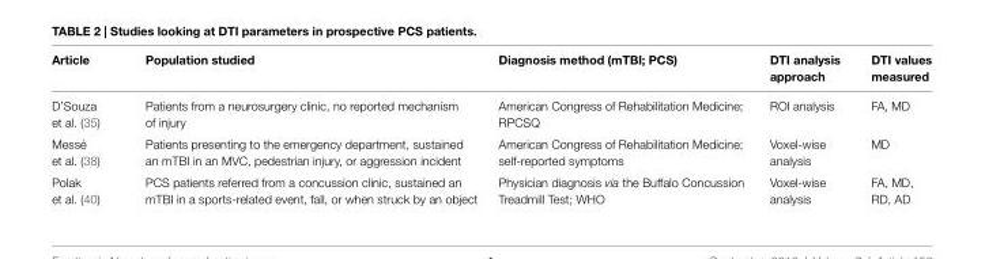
<table><thead><tr><td>Article</td><td>Population studied</td><td>Diagnosis method (mTBi; PCS)</td><td>DTi analysis approach</td><td>DTi values measured</td></tr></thead><tbody><tr><td>D’Souza et al. (35)</td><td>Patients from a neurosurgery clinic, no reported mechanism of injury</td><td>American Congress of Rehabilitation Medicine; RPCSQ</td><td>ROI analysis</td><td>FA, MD</td></tr><tr><td>Messé et al. (38)</td><td>Patients presenting to the emergency department, sustained an mTBI in an MVC, pedestrian injury, or aggression incident</td><td>American Congress of Rehabilitation Medicine; self-reported symptoms</td><td>Voxel-wise analysis</td><td>MD</td></tr><tr><td>Polak et al. (40)</td><td>PCS patients referred from a concussion clinic, sustained an mTBI in a sports-related event, fall, or when struck by an object</td><td>Physician diagnosis via the Buffalo Concussion Treadmill Test; WHO</td><td>Voxel-wise analysis</td><td>FA, MD, RD, AD</td></tr></tbody></table>